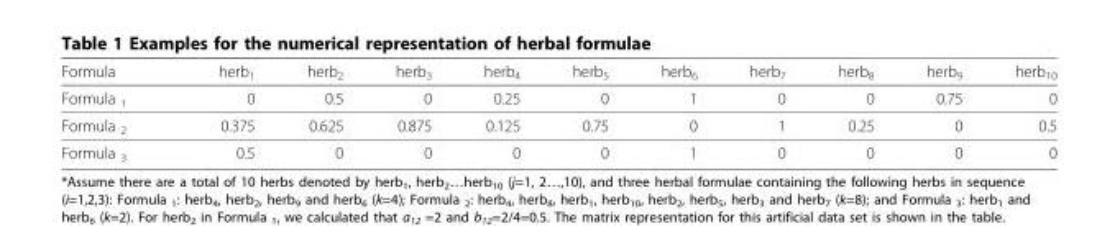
<table><thead><tr><td>Formula</td><td>herb<sub>1</sub></td><td>herb<sub>2</sub></td><td>herb<sub>3</sub></td><td>herb<sub>4</sub></td><td>herb<sub>5</sub></td><td>herb<sub>6</sub></td><td>herb<sub>7</sub></td><td>herb<sub>8</sub></td><td>herb<sub>9</sub></td><td>herb<sub>10</sub></td></tr></thead><tbody><tr><td>Formula <sub>1</sub></td><td>0</td><td>0.5</td><td>0</td><td>0.25</td><td>0</td><td>1</td><td>0</td><td>0</td><td>0.75</td><td>0</td></tr><tr><td>Formula <sub>2</sub></td><td>0.375</td><td>0.625</td><td>0.875</td><td>0.125</td><td>0.75</td><td>0</td><td>1</td><td>0.25</td><td>0</td><td>0.5</td></tr><tr><td>Formula <sub>3</sub></td><td>0.5</td><td>0</td><td>0</td><td>0</td><td>0</td><td>1</td><td>0</td><td>0</td><td>0</td><td>0</td></tr></tbody></table>